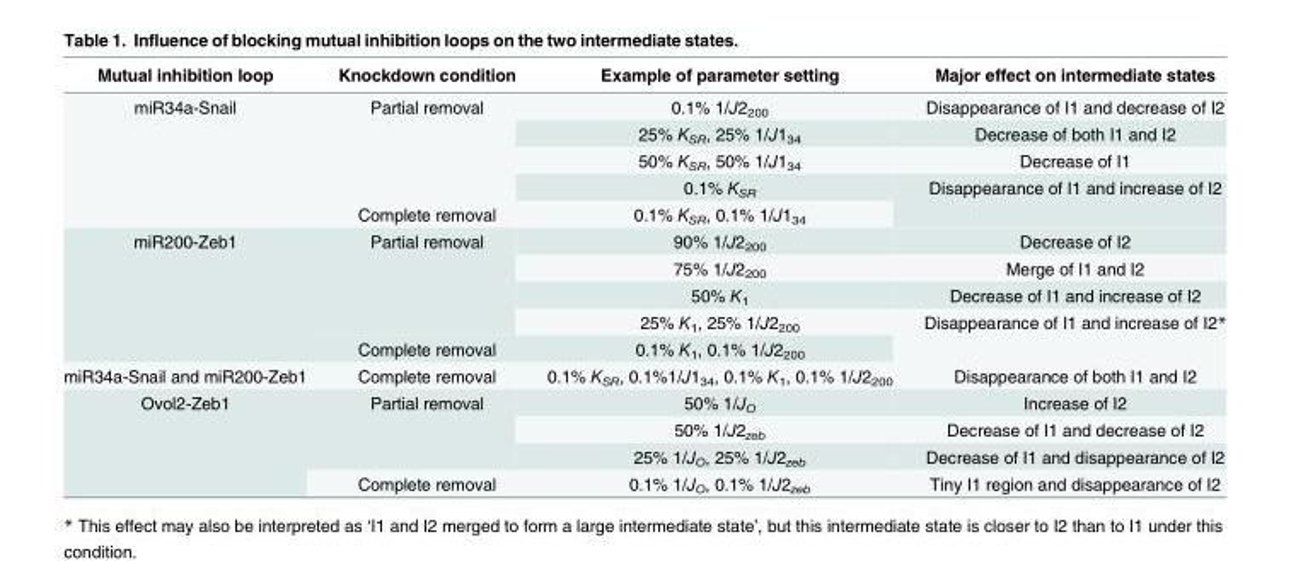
<table><thead><tr><td>Mutual inhibition loop</td><td>Knockdown condition</td><td>Example of parameter setting</td><td>Major effect on intermediate states</td></tr></thead><tbody><tr><td rowspan="5">miR34a-Snail</td><td rowspan="4">Partial removal</td><td>0.1% 1/J2<sub>200</sub></td><td>Disappearance of I1 and decrease of I2</td></tr><tr><td>25% K<sub>SR</sub>, 25% 1/J1<sub>34</sub></td><td>Decrease of both I1 and I2</td></tr><tr><td>50% K<sub>SR</sub>, 50% 1/J1<sub>34</sub></td><td>Decrease of I1</td></tr><tr><td>0.1% K<sub>SR</sub></td><td rowspan="2">Disappearance of I1 and increase of I2</td></tr><tr><td>Complete removal</td><td>0.1% K<sub>SR</sub>, 0.1% 1/J1<sub>34</sub></td></tr><tr><td rowspan="5">miR200-Zeb1</td><td rowspan="4">Partial removal</td><td>90% 1/J2<sub>200</sub></td><td>Decrease of I2</td></tr><tr><td>75% 1/J2<sub>200</sub></td><td>Merge of I1 and I2</td></tr><tr><td>50% K<sub>1</sub></td><td>Decrease of I1 and increase of I2</td></tr><tr><td>25% K<sub>1</sub>, 25% 1/J2<sub>200</sub></td><td rowspan="2">Disappearance of I1 and increase of I2*</td></tr><tr><td>Complete removal</td><td>0.1% K<sub>1</sub>, 0.1% 1/J2<sub>200</sub></td></tr><tr><td>miR34a-Snail and miR200-Zeb1</td><td>Complete removal</td><td>0.1% K<sub>SR</sub>, 0.1%1/J1<sub>34</sub>, 0.1% K<sub>1</sub>, 0.1% 1/J2<sub>200</sub></td><td>Disappearance of both I1 and I2</td></tr><tr><td rowspan="4">Ovol2-Zeb1</td><td rowspan="3">Partial removal</td><td>50% 1/J<sub>O</sub></td><td>Increase of I2</td></tr><tr><td>50% 1/J2<sub>zeb</sub></td><td>Decrease of I1 and decrease of I2</td></tr><tr><td>25% 1/J<sub>O</sub>, 25% 1/J2<sub>zeb</sub></td><td>Decrease of I1 and disappearance of I2</td></tr><tr><td>Complete removal</td><td>0.1% 1/J<sub>O</sub>, 0.1% 1/J2<sub>zeb</sub></td><td>Tiny I1 region and disappearance of I2</td></tr></tbody></table>